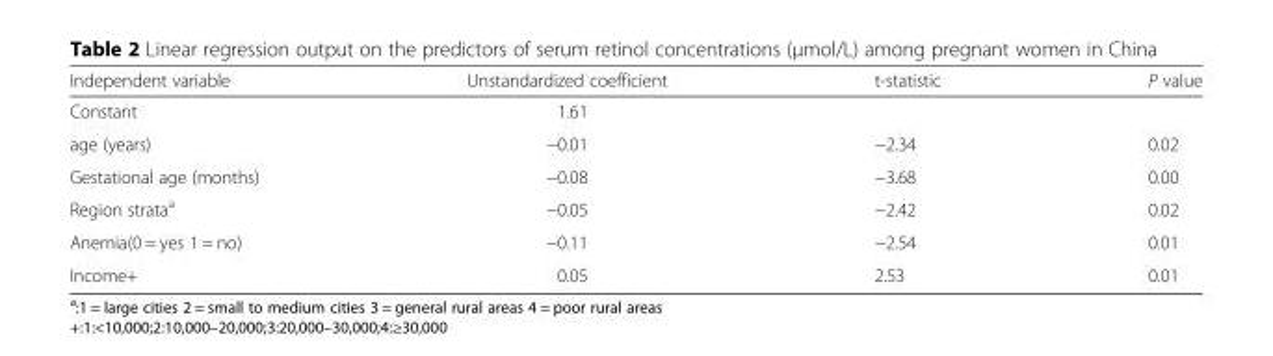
<table><thead><tr><td>Independent variable</td><td>Unstandardized coefficient</td><td>t-statistic</td><td>P value</td></tr></thead><tbody><tr><td>Constant</td><td>1.61</td><td></td><td></td></tr><tr><td>age (years)</td><td>−0.01</td><td>−2.34</td><td>0.02</td></tr><tr><td>Gestational age (months)</td><td>−0.08</td><td>−3.68</td><td>0.00</td></tr><tr><td>Region strata<sup>a</sup></td><td>−0.05</td><td>−2.42</td><td>0.02</td></tr><tr><td>Anemia(0 = yes 1 = no)</td><td>−0.11</td><td>−2.54</td><td>0.01</td></tr><tr><td>Income+</td><td>0.05</td><td>2.53</td><td>0.01</td></tr></tbody></table>